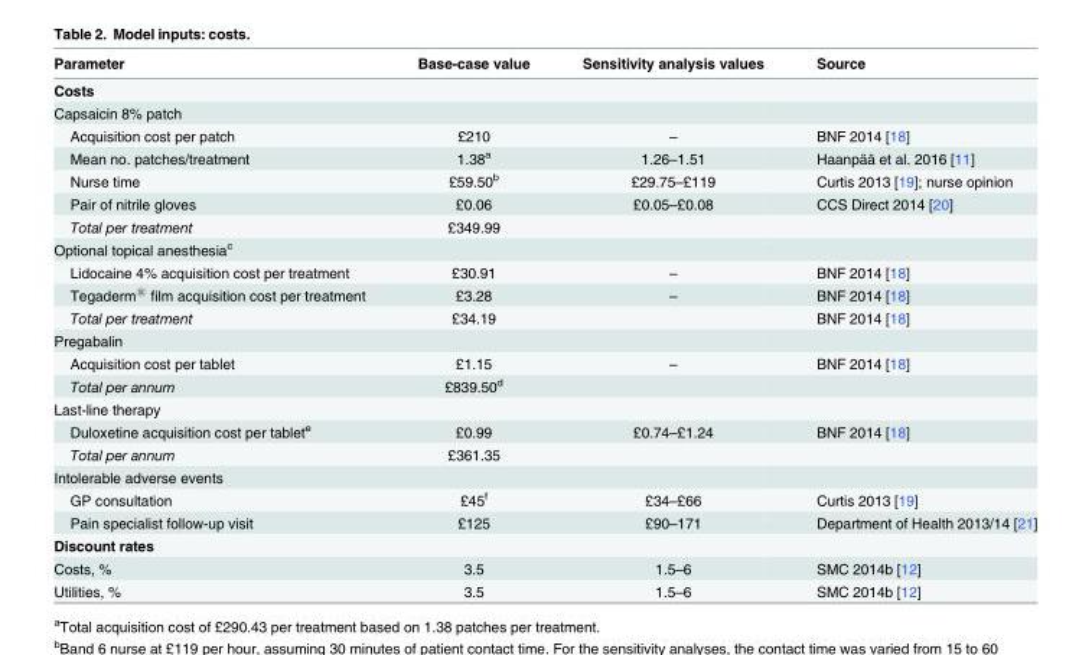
<table><thead><tr><td>Parameter</td><td>Base-case value</td><td>Sensitivity analysis values</td><td>Source</td></tr></thead><tbody><tr><td colspan="4">Costs</td></tr><tr><td colspan="4">Capsaicin 8% patch</td></tr><tr><td>Acquisition cost per patch</td><td>£210</td><td>–</td><td>BNF 2014 [18]</td></tr><tr><td>Mean no. patches/treatment</td><td>1.38<sup>a</sup></td><td>1.26–1.51</td><td>Haanpää et al. 2016 [11]</td></tr><tr><td>Nurse time</td><td>£59.50<sup>b</sup></td><td>£29.75–£119</td><td>Curtis 2013 [19]; nurse opinion</td></tr><tr><td>Pair of nitrile gloves</td><td>£0.06</td><td>£0.05–£0.08</td><td>CCS Direct 2014 [20]</td></tr><tr><td>Total per treatment</td><td>£349.99</td><td></td><td></td></tr><tr><td colspan="4">Optional topical anesthesia<sup>c</sup></td></tr><tr><td>Lidocaine 4% acquisition cost per treatment</td><td>£30.91</td><td>–</td><td>BNF 2014 [18]</td></tr><tr><td>Tegaderm<sup>®</sup> film acquisition cost per treatment</td><td>£3.28</td><td>–</td><td>BNF 2014 [18]</td></tr><tr><td>Total per treatment</td><td>£34.19</td><td></td><td>BNF 2014 [18]</td></tr><tr><td colspan="4">Pregabalin</td></tr><tr><td>Acquisition cost per tablet</td><td>£1.15</td><td>–</td><td>BNF 2014 [18]</td></tr><tr><td>Total per annum</td><td>£839.50<sup>d</sup></td><td></td><td></td></tr><tr><td colspan="4">Last-line therapy</td></tr><tr><td>Duloxetine acquisition cost per tablet<sup>e</sup></td><td>£0.99</td><td>£0.74–£1.24</td><td>BNF 2014 [18]</td></tr><tr><td>Total per annum</td><td>£361.35</td><td></td><td></td></tr><tr><td colspan="4">Intolerable adverse events</td></tr><tr><td>GP consultation</td><td>£45<sup>f</sup></td><td>£34–£66</td><td>Curtis 2013 [19]</td></tr><tr><td>Pain specialist follow-up visit</td><td>£125</td><td>£90–171</td><td>Department of Health 2013/14 [21]</td></tr><tr><td colspan="4">Discount rates</td></tr><tr><td>Costs, %</td><td>3.5</td><td>1.5–6</td><td>SMC 2014b [12]</td></tr><tr><td>Utilities, %</td><td>3.5</td><td>1.5–6</td><td>SMC 2014b [12]</td></tr></tbody></table>